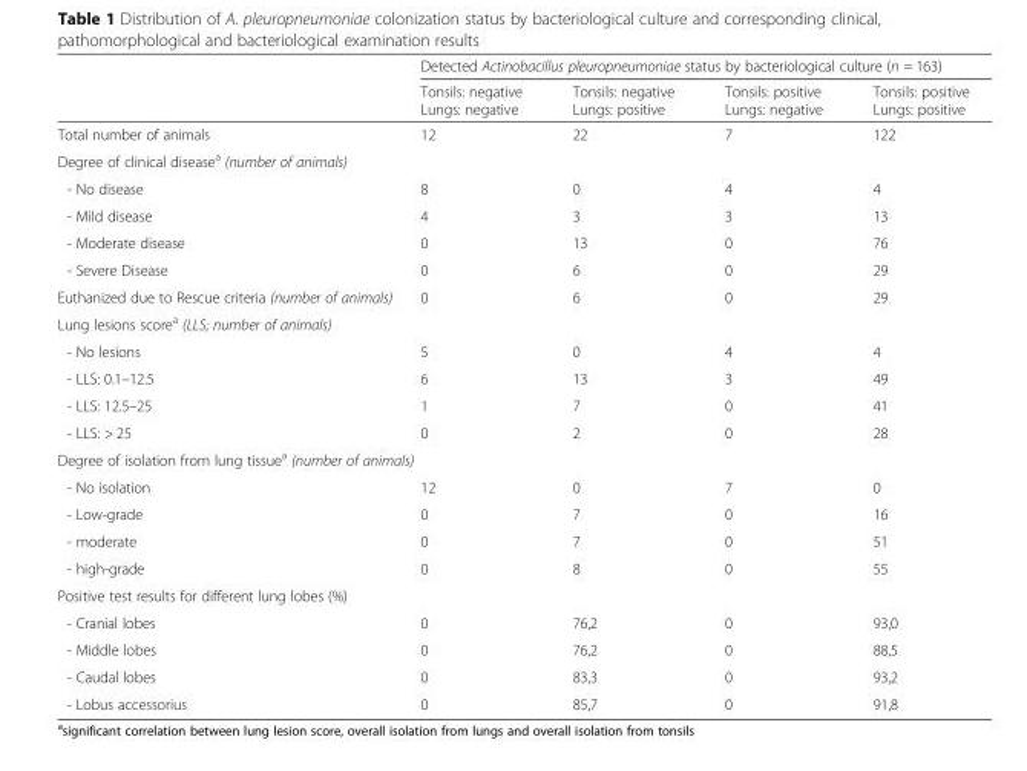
<table><thead><tr><td rowspan="2"></td><td colspan="4">Detected Actinobacillus pleuropneumoniae status by bacteriological culture (n = 163)</td></tr><tr><td>Tonsils: negative Lungs: negative</td><td>Tonsils: negative Lungs: positive</td><td>Tonsils: positive Lungs: negative</td><td>Tonsils: positive Lungs: positive</td></tr></thead><tbody><tr><td>Total number of animals</td><td>12</td><td>22</td><td>7</td><td>122</td></tr><tr><td colspan="5">Degree of clinical disease<sup>a</sup> (number of animals)</td></tr><tr><td>- No disease</td><td>8</td><td>0</td><td>4</td><td>4</td></tr><tr><td>- Mild disease</td><td>4</td><td>3</td><td>3</td><td>13</td></tr><tr><td>- Moderate disease</td><td>0</td><td>13</td><td>0</td><td>76</td></tr><tr><td>- Severe Disease</td><td>0</td><td>6</td><td>0</td><td>29</td></tr><tr><td>Euthanized due to Rescue criteria (number of animals)</td><td>0</td><td>6</td><td>0</td><td>29</td></tr><tr><td colspan="5">Lung lesions score<sup>a</sup> (LLS; number of animals)</td></tr><tr><td>- No lesions</td><td>5</td><td>0</td><td>4</td><td>4</td></tr><tr><td>- LLS: 0.1–12.5</td><td>6</td><td>13</td><td>3</td><td>49</td></tr><tr><td>- LLS: 12.5–25</td><td>1</td><td>7</td><td>0</td><td>41</td></tr><tr><td>- LLS: &gt; 25</td><td>0</td><td>2</td><td>0</td><td>28</td></tr><tr><td colspan="5">Degree of isolation from lung tissue<sup>a</sup> (number of animals)</td></tr><tr><td>- No isolation</td><td>12</td><td>0</td><td>7</td><td>0</td></tr><tr><td>- Low-grade</td><td>0</td><td>7</td><td>0</td><td>16</td></tr><tr><td>- moderate</td><td>0</td><td>7</td><td>0</td><td>51</td></tr><tr><td>- high-grade</td><td>0</td><td>8</td><td>0</td><td>55</td></tr><tr><td colspan="5">Positive test results for different lung lobes (%)</td></tr><tr><td>- Cranial lobes</td><td>0</td><td>76,2</td><td>0</td><td>93,0</td></tr><tr><td>- Middle lobes</td><td>0</td><td>76,2</td><td>0</td><td>88,5</td></tr><tr><td>- Caudal lobes</td><td>0</td><td>83,3</td><td>0</td><td>93,2</td></tr><tr><td>- Lobus accessorius</td><td>0</td><td>85,7</td><td>0</td><td>91,8</td></tr></tbody></table>